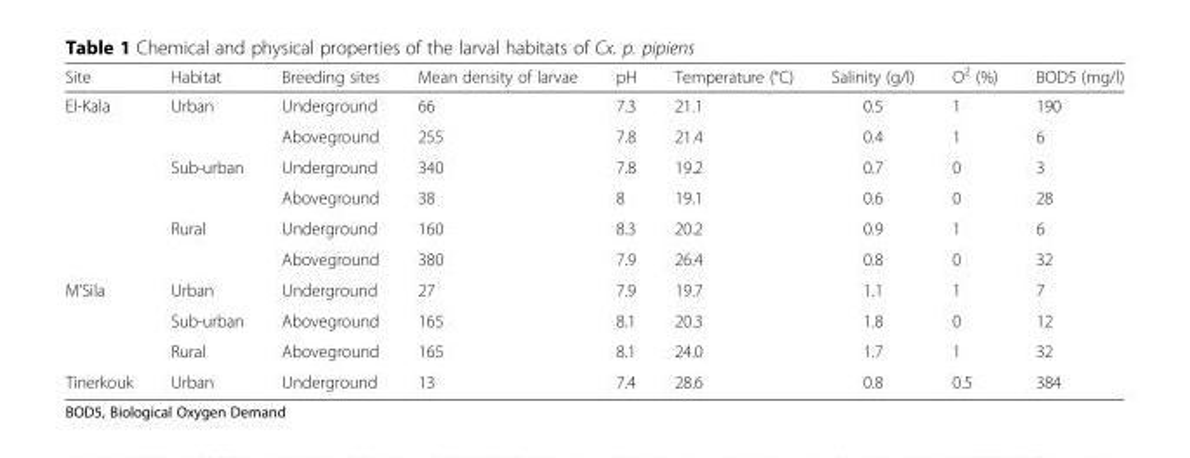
<table><thead><tr><td>Site</td><td>Habitat</td><td>Breeding sites</td><td>Mean density of larvae</td><td>pH</td><td>Temperature (°C)</td><td>Salinity (g/l)</td><td>O<sup>2</sup> (%)</td><td>BOD5 (mg/l)</td></tr></thead><tbody><tr><td rowspan="6">El-Kala</td><td rowspan="2">Urban</td><td>Underground</td><td>66</td><td>7.3</td><td>21.1</td><td>0.5</td><td>1</td><td>190</td></tr><tr><td>Aboveground</td><td>255</td><td>7.8</td><td>21.4</td><td>0.4</td><td>1</td><td>6</td></tr><tr><td rowspan="2">Sub-urban</td><td>Underground</td><td>340</td><td>7.8</td><td>19.2</td><td>0.7</td><td>0</td><td>3</td></tr><tr><td>Aboveground</td><td>38</td><td>8</td><td>19.1</td><td>0.6</td><td>0</td><td>28</td></tr><tr><td rowspan="2">Rural</td><td>Underground</td><td>160</td><td>8.3</td><td>20.2</td><td>0.9</td><td>1</td><td>6</td></tr><tr><td>Aboveground</td><td>380</td><td>7.9</td><td>26.4</td><td>0.8</td><td>0</td><td>32</td></tr><tr><td rowspan="3">M’Sila</td><td>Urban</td><td>Underground</td><td>27</td><td>7.9</td><td>19.7</td><td>1.1</td><td>1</td><td>7</td></tr><tr><td>Sub-urban</td><td>Aboveground</td><td>165</td><td>8.1</td><td>20.3</td><td>1.8</td><td>0</td><td>12</td></tr><tr><td>Rural</td><td>Aboveground</td><td>165</td><td>8.1</td><td>24.0</td><td>1.7</td><td>1</td><td>32</td></tr><tr><td>Tinerkouk</td><td>Urban</td><td>Underground</td><td>13</td><td>7.4</td><td>28.6</td><td>0.8</td><td>0.5</td><td>384</td></tr></tbody></table>